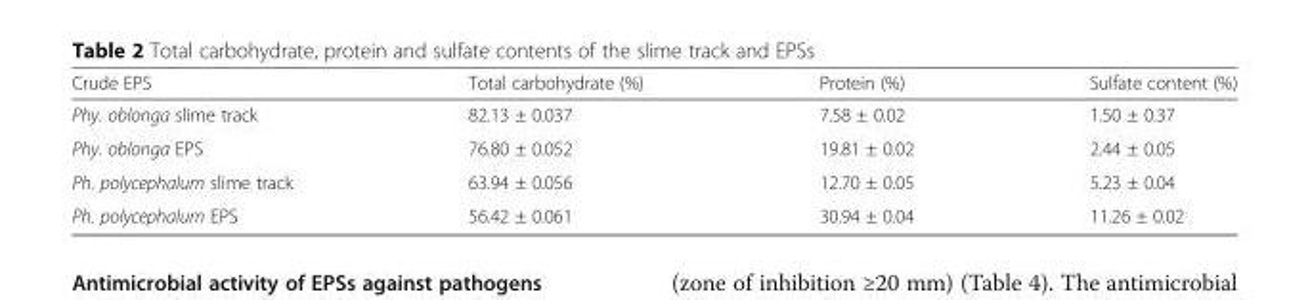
<table><thead><tr><td>Crude EPS</td><td>Total carbohydrate (%)</td><td>Protein (%)</td><td>Sulfate content (%)</td></tr></thead><tbody><tr><td>Phy. oblonga slime track</td><td>82.13 ± 0.037</td><td>7.58 ± 0.02</td><td>1.50 ± 0.37</td></tr><tr><td>Phy. oblonga EPS</td><td>76.80 ± 0.052</td><td>19.81 ± 0.02</td><td>2.44 ± 0.05</td></tr><tr><td>Ph. polycephalum slime track</td><td>63.94 ± 0.056</td><td>12.70 ± 0.05</td><td>5.23 ± 0.04</td></tr><tr><td>Ph. polycephalum EPS</td><td>56.42 ± 0.061</td><td>30.94 ± 0.04</td><td>11.26 ± 0.02</td></tr></tbody></table>